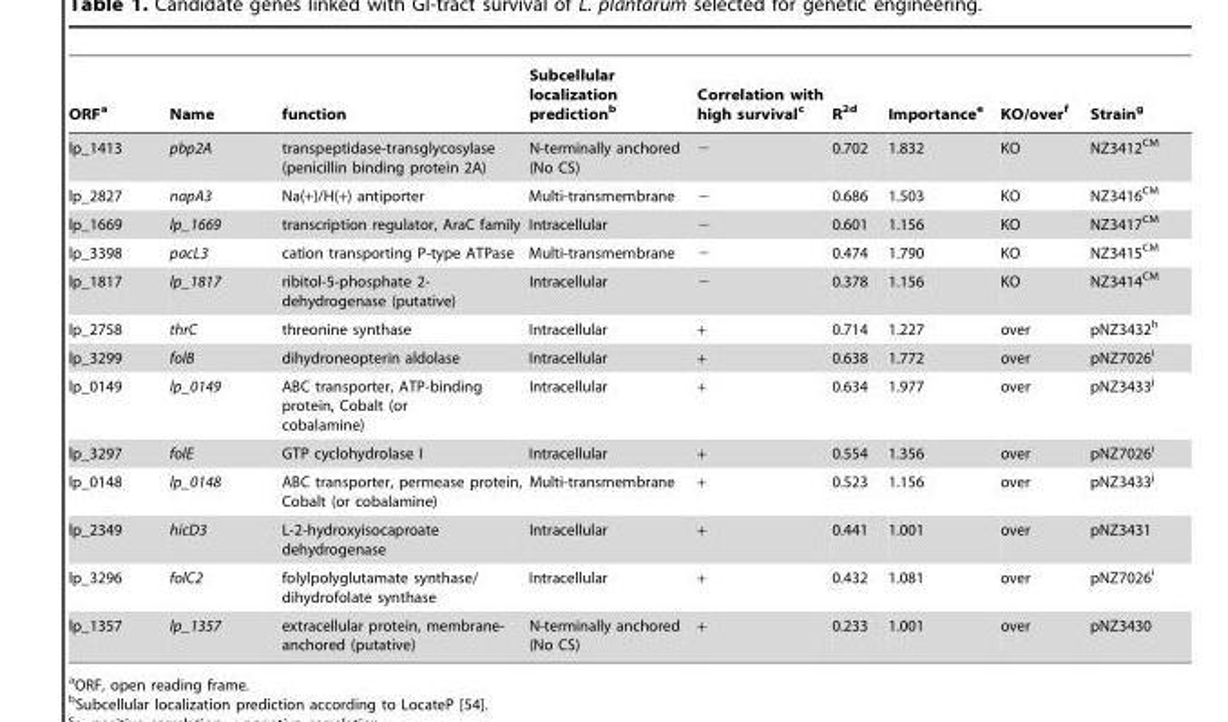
<table><thead><tr><td>ORF<sup>a</sup></td><td>Name</td><td>function</td><td>Subcellular localization prediction<sup>b</sup></td><td>Correlation with high survival<sup>c</sup></td><td>R<sup>2d</sup></td><td>Importance<sup>e</sup></td><td>KO/over<sup>f</sup></td><td>Strain<sup>g</sup></td></tr></thead><tbody><tr><td>lp_1413</td><td>pbp2A</td><td>transpeptidase-transglycosylase (penicillin binding protein 2A)</td><td>N-terminally anchored (No CS)</td><td>−</td><td>0.702</td><td>1.832</td><td>KO</td><td>NZ3412<sup>CM</sup></td></tr><tr><td>lp_2827</td><td>napA3</td><td>Na(+)/H(+) antiporter</td><td>Multi-transmembrane</td><td>−</td><td>0.686</td><td>1.503</td><td>KO</td><td>NZ3416<sup>CM</sup></td></tr><tr><td>lp_1669</td><td>lp_1669</td><td>transcription regulator, AraC family</td><td>Intracellular</td><td>−</td><td>0.601</td><td>1.156</td><td>KO</td><td>NZ3417<sup>CM</sup></td></tr><tr><td>lp_3398</td><td>pacL3</td><td>cation transporting P-type ATPase</td><td>Multi-transmembrane</td><td>−</td><td>0.474</td><td>1.790</td><td>KO</td><td>NZ3415<sup>CM</sup></td></tr><tr><td>lp_1817</td><td>lp_1817</td><td>ribitol-5-phosphate 2- dehydrogenase (putative)</td><td>Intracellular</td><td>−</td><td>0.378</td><td>1.156</td><td>KO</td><td>NZ3414<sup>CM</sup></td></tr><tr><td>lp_2758</td><td>thrC</td><td>threonine synthase</td><td>Intracellular</td><td>+</td><td>0.714</td><td>1.227</td><td>over</td><td>pNZ3432<sup>h</sup></td></tr><tr><td>lp_3299</td><td>folB</td><td>dihydroneopterin aldolase</td><td>Intracellular</td><td>+</td><td>0.638</td><td>1.772</td><td>over</td><td>pNZ7026<sup>i</sup></td></tr><tr><td>lp_0149</td><td>lp_0149</td><td>ABC transporter, ATP-binding protein, Cobalt (or cobalamine)</td><td>Intracellular</td><td>+</td><td>0.634</td><td>1.977</td><td>over</td><td>pNZ3433<sup>j</sup></td></tr><tr><td>lp_3297</td><td>folE</td><td>GTP cyclohydrolase I</td><td>Intracellular</td><td>+</td><td>0.554</td><td>1.356</td><td>over</td><td>pNZ7026<sup>i</sup></td></tr><tr><td>lp_0148</td><td>lp_0148</td><td>ABC transporter, permease protein, Cobalt (or cobalamine)</td><td>Multi-transmembrane</td><td>+</td><td>0.523</td><td>1.156</td><td>over</td><td>pNZ3433<sup>j</sup></td></tr><tr><td>lp_2349</td><td>hicD3</td><td>L-2-hydroxyisocaproate dehydrogenase</td><td>Intracellular</td><td>+</td><td>0.441</td><td>1.001</td><td>over</td><td>pNZ3431</td></tr><tr><td>lp_3296</td><td>folC2</td><td>folylpolyglutamate synthase/ dihydrofolate synthase</td><td>Intracellular</td><td>+</td><td>0.432</td><td>1.081</td><td>over</td><td>pNZ7026<sup>i</sup></td></tr><tr><td>lp_1357</td><td>lp_1357</td><td>extracellular protein, membrane- anchored (putative)</td><td>N-terminally anchored (No CS)</td><td>+</td><td>0.233</td><td>1.001</td><td>over</td><td>pNZ3430</td></tr></tbody></table>